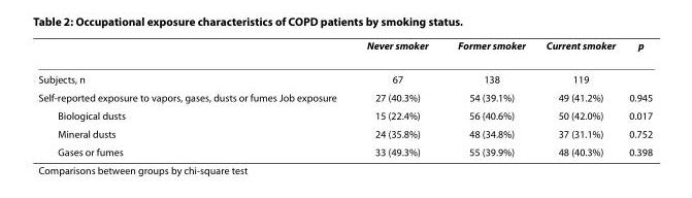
<table><thead><tr><td></td><td>Never smoker</td><td>Former smoker</td><td>Current smoker</td><td>p</td></tr></thead><tbody><tr><td>Subjects, n</td><td>67</td><td>138</td><td>119</td><td></td></tr><tr><td>Self-reported exposure to vapors, gases, dusts or fumes Job exposure</td><td>27 (40.3%)</td><td>54 (39.1%)</td><td>49 (41.2%)</td><td>0.945</td></tr><tr><td>Biological dusts</td><td>15 (22.4%)</td><td>56 (40.6%)</td><td>50 (42.0%)</td><td>0.017</td></tr><tr><td>Mineral dusts</td><td>24 (35.8%)</td><td>48 (34.8%)</td><td>37 (31.1%)</td><td>0.752</td></tr><tr><td>Gases or fumes</td><td>33 (49.3%)</td><td>55 (39.9%)</td><td>48 (40.3%)</td><td>0.398</td></tr></tbody></table>